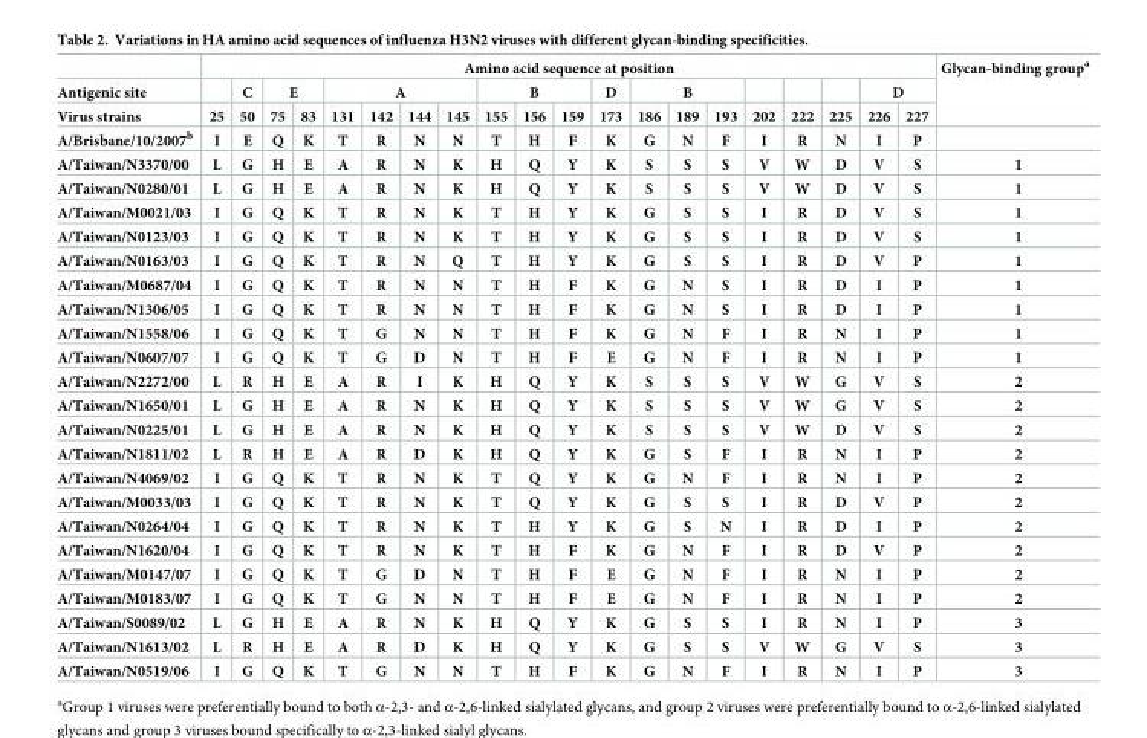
<table><thead><tr><td rowspan="3">Antigenic site Virus strains</td><td colspan="20">Amino acid sequence at position</td><td rowspan="3">Glycan-binding group<sup>a</sup></td></tr><tr><td rowspan="2">25</td><td rowspan="2">C 50</td><td colspan="2">E</td><td colspan="4">A</td><td colspan="3">B</td><td rowspan="2">D 173</td><td colspan="3">B</td><td rowspan="2">202</td><td rowspan="2">222</td><td rowspan="2">225</td><td colspan="2">D</td></tr><tr><td>75</td><td>83</td><td>131</td><td>142</td><td>144</td><td>145</td><td>155</td><td>156</td><td>159</td><td>186</td><td>189</td><td>193</td><td>226</td><td>227</td></tr></thead><tbody><tr><td>A/Brisbane/10/2007<sup>b</sup></td><td>I</td><td>E</td><td>Q</td><td>K</td><td>T</td><td>R</td><td>N</td><td>N</td><td>T</td><td>H</td><td>F</td><td>K</td><td>G</td><td>N</td><td>F</td><td>I</td><td>R</td><td>N</td><td>I</td><td>P</td><td></td></tr><tr><td>A/Taiwan/N3370/00</td><td>L</td><td>G</td><td>H</td><td>E</td><td>A</td><td>R</td><td>N</td><td>K</td><td>H</td><td>Q</td><td>Y</td><td>K</td><td>S</td><td>S</td><td>S</td><td>V</td><td>W</td><td>D</td><td>V</td><td>S</td><td>1</td></tr><tr><td>A/Taiwan/N0280/01</td><td>L</td><td>G</td><td>H</td><td>E</td><td>A</td><td>R</td><td>N</td><td>K</td><td>H</td><td>Q</td><td>Y</td><td>K</td><td>S</td><td>S</td><td>S</td><td>V</td><td>W</td><td>D</td><td>V</td><td>S</td><td>1</td></tr><tr><td>A/Taiwan/M0021/03</td><td>I</td><td>G</td><td>Q</td><td>K</td><td>T</td><td>R</td><td>N</td><td>K</td><td>T</td><td>H</td><td>Y</td><td>K</td><td>G</td><td>S</td><td>S</td><td>I</td><td>R</td><td>D</td><td>V</td><td>S</td><td>1</td></tr><tr><td>A/Taiwan/N0123/03</td><td>I</td><td>G</td><td>Q</td><td>K</td><td>T</td><td>R</td><td>N</td><td>K</td><td>T</td><td>H</td><td>Y</td><td>K</td><td>G</td><td>S</td><td>S</td><td>I</td><td>R</td><td>D</td><td>V</td><td>S</td><td>1</td></tr><tr><td>A/Taiwan/N0163/03</td><td>I</td><td>G</td><td>Q</td><td>K</td><td>T</td><td>R</td><td>N</td><td>Q</td><td>T</td><td>H</td><td>Y</td><td>K</td><td>G</td><td>S</td><td>S</td><td>I</td><td>R</td><td>D</td><td>V</td><td>P</td><td>1</td></tr><tr><td>A/Taiwan/M0687/04</td><td>I</td><td>G</td><td>Q</td><td>K</td><td>T</td><td>R</td><td>N</td><td>N</td><td>T</td><td>H</td><td>F</td><td>K</td><td>G</td><td>N</td><td>S</td><td>I</td><td>R</td><td>D</td><td>I</td><td>P</td><td>1</td></tr><tr><td>A/Taiwan/N1306/05</td><td>I</td><td>G</td><td>Q</td><td>K</td><td>T</td><td>R</td><td>N</td><td>N</td><td>T</td><td>H</td><td>F</td><td>K</td><td>G</td><td>N</td><td>S</td><td>I</td><td>R</td><td>D</td><td>I</td><td>P</td><td>1</td></tr><tr><td>A/Taiwan/N1558/06</td><td>I</td><td>G</td><td>Q</td><td>K</td><td>T</td><td>G</td><td>N</td><td>N</td><td>T</td><td>H</td><td>F</td><td>K</td><td>G</td><td>N</td><td>F</td><td>I</td><td>R</td><td>N</td><td>I</td><td>P</td><td>1</td></tr><tr><td>A/Taiwan/N0607/07</td><td>I</td><td>G</td><td>Q</td><td>K</td><td>T</td><td>G</td><td>D</td><td>N</td><td>T</td><td>H</td><td>F</td><td>E</td><td>G</td><td>N</td><td>F</td><td>I</td><td>R</td><td>N</td><td>I</td><td>P</td><td>1</td></tr><tr><td>A/Taiwan/N2272/00</td><td>L</td><td>R</td><td>H</td><td>E</td><td>A</td><td>R</td><td>I</td><td>K</td><td>H</td><td>Q</td><td>Y</td><td>K</td><td>S</td><td>S</td><td>S</td><td>V</td><td>W</td><td>G</td><td>V</td><td>S</td><td>2</td></tr><tr><td>A/Taiwan/N1650/01</td><td>L</td><td>G</td><td>H</td><td>E</td><td>A</td><td>R</td><td>N</td><td>K</td><td>H</td><td>Q</td><td>Y</td><td>K</td><td>S</td><td>S</td><td>S</td><td>V</td><td>W</td><td>G</td><td>V</td><td>S</td><td>2</td></tr><tr><td>A/Taiwan/N0225/01</td><td>L</td><td>G</td><td>H</td><td>E</td><td>A</td><td>R</td><td>N</td><td>K</td><td>H</td><td>Q</td><td>Y</td><td>K</td><td>S</td><td>S</td><td>S</td><td>V</td><td>W</td><td>D</td><td>V</td><td>S</td><td>2</td></tr><tr><td>A/Taiwan/N1811/02</td><td>L</td><td>R</td><td>H</td><td>E</td><td>A</td><td>R</td><td>D</td><td>K</td><td>H</td><td>Q</td><td>Y</td><td>K</td><td>G</td><td>S</td><td>F</td><td>I</td><td>R</td><td>N</td><td>I</td><td>P</td><td>2</td></tr><tr><td>A/Taiwan/N4069/02</td><td>I</td><td>G</td><td>Q</td><td>K</td><td>T</td><td>R</td><td>N</td><td>K</td><td>T</td><td>Q</td><td>Y</td><td>K</td><td>G</td><td>N</td><td>F</td><td>I</td><td>R</td><td>N</td><td>I</td><td>P</td><td>2</td></tr><tr><td>A/Taiwan/M0033/03</td><td>I</td><td>G</td><td>Q</td><td>K</td><td>T</td><td>R</td><td>N</td><td>K</td><td>T</td><td>Q</td><td>Y</td><td>K</td><td>G</td><td>S</td><td>S</td><td>I</td><td>R</td><td>D</td><td>V</td><td>P</td><td>2</td></tr><tr><td>A/Taiwan/N0264/04</td><td>I</td><td>G</td><td>Q</td><td>K</td><td>T</td><td>R</td><td>N</td><td>K</td><td>T</td><td>H</td><td>Y</td><td>K</td><td>G</td><td>S</td><td>N</td><td>I</td><td>R</td><td>D</td><td>I</td><td>P</td><td>2</td></tr><tr><td>A/Taiwan/N1620/04</td><td>I</td><td>G</td><td>Q</td><td>K</td><td>T</td><td>R</td><td>N</td><td>K</td><td>T</td><td>H</td><td>F</td><td>K</td><td>G</td><td>N</td><td>F</td><td>I</td><td>R</td><td>D</td><td>V</td><td>P</td><td>2</td></tr><tr><td>A/Taiwan/M0147/07</td><td>I</td><td>G</td><td>Q</td><td>K</td><td>T</td><td>G</td><td>D</td><td>N</td><td>T</td><td>H</td><td>F</td><td>E</td><td>G</td><td>N</td><td>F</td><td>I</td><td>R</td><td>N</td><td>I</td><td>P</td><td>2</td></tr><tr><td>A/Taiwan/M0183/07</td><td>I</td><td>G</td><td>Q</td><td>K</td><td>T</td><td>G</td><td>N</td><td>N</td><td>T</td><td>H</td><td>F</td><td>E</td><td>G</td><td>N</td><td>F</td><td>I</td><td>R</td><td>N</td><td>I</td><td>P</td><td>2</td></tr><tr><td>A/Taiwan/S0089/02</td><td>L</td><td>G</td><td>H</td><td>E</td><td>A</td><td>R</td><td>N</td><td>K</td><td>H</td><td>Q</td><td>Y</td><td>K</td><td>G</td><td>S</td><td>S</td><td>I</td><td>R</td><td>N</td><td>I</td><td>P</td><td>3</td></tr><tr><td>A/Taiwan/N1613/02</td><td>L</td><td>R</td><td>H</td><td>E</td><td>A</td><td>R</td><td>D</td><td>K</td><td>H</td><td>Q</td><td>Y</td><td>K</td><td>G</td><td>S</td><td>S</td><td>V</td><td>W</td><td>G</td><td>V</td><td>S</td><td>3</td></tr><tr><td>A/Taiwan/N0519/06</td><td>I</td><td>G</td><td>Q</td><td>K</td><td>T</td><td>G</td><td>N</td><td>N</td><td>T</td><td>H</td><td>F</td><td>K</td><td>G</td><td>N</td><td>F</td><td>I</td><td>R</td><td>N</td><td>I</td><td>P</td><td>3</td></tr></tbody></table>